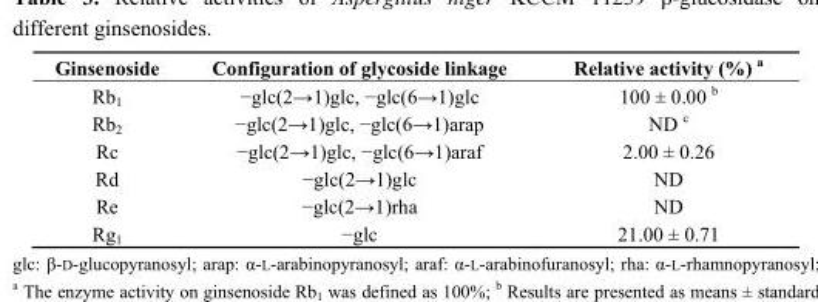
<table><thead><tr><td>Ginsenoside</td><td>Configuration of glycoside linkage</td><td>Relative activity (%) a</td></tr></thead><tbody><tr><td>Rb<sub>1</sub></td><td>−glc(2→1)glc, −glc(6→1)glc</td><td>100 ± 0.00 b</td></tr><tr><td>Rb<sub>2</sub></td><td>−glc(2→1)glc, −glc(6→1)arap</td><td>ND c</td></tr><tr><td>Rc</td><td>−glc(2→1)glc, −glc(6→1)araf</td><td>2.00 ± 0.26</td></tr><tr><td>Rd</td><td>−glc(2→1)glc</td><td>ND</td></tr><tr><td>Re</td><td>−glc(2→1)rha</td><td>ND</td></tr><tr><td>Rg<sub>1</sub></td><td>−glc</td><td>21.00 ± 0.71</td></tr></tbody></table>